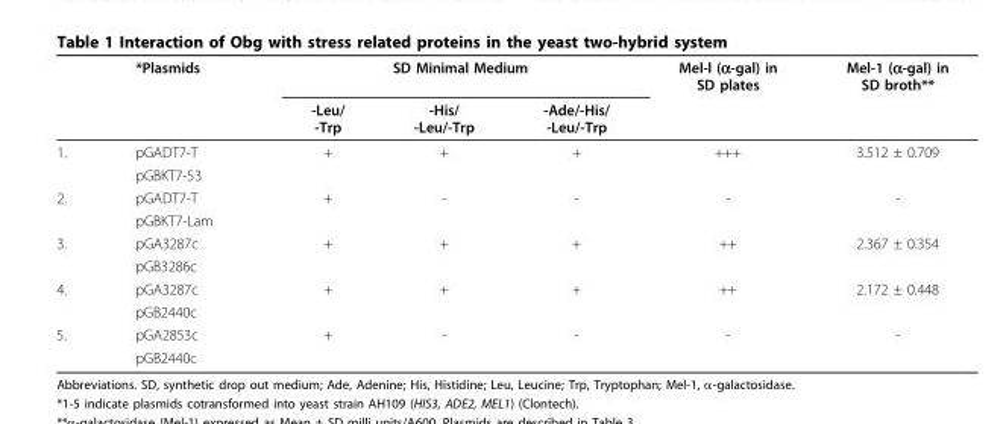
<table><thead><tr><td rowspan="2"></td><td rowspan="2">*Plasmids</td><td colspan="3">SD Minimal Medium</td><td rowspan="2">Mel-l (α-gal) in SD plates</td><td rowspan="2">Mel-1 (α-gal) in SD broth**</td></tr><tr><td>-Leu/ -Trp</td><td>-His/ -Leu/-Trp</td><td>-Ade/-His/ -Leu/-Trp</td></tr></thead><tbody><tr><td rowspan="2">1.</td><td>pGADT7-T</td><td>+</td><td>+</td><td>+</td><td>+++</td><td>3.512 ± 0.709</td></tr><tr><td>pGBKT7-53</td><td></td><td></td><td></td><td></td><td></td></tr><tr><td rowspan="2">2.</td><td>pGADT7-T</td><td>+</td><td>-</td><td>-</td><td>-</td><td>-</td></tr><tr><td>pGBKT7-Lam</td><td></td><td></td><td></td><td></td><td></td></tr><tr><td rowspan="2">3.</td><td>pGA3287c</td><td>+</td><td>+</td><td>+</td><td>++</td><td>2.367 ± 0.354</td></tr><tr><td>pGB3286c</td><td></td><td></td><td></td><td></td><td></td></tr><tr><td rowspan="2">4.</td><td>pGA3287c</td><td>+</td><td>+</td><td>+</td><td>++</td><td>2.172 ± 0.448</td></tr><tr><td>pGB2440c</td><td></td><td></td><td></td><td></td><td></td></tr><tr><td rowspan="2">5.</td><td>pGA2853c</td><td>+</td><td>-</td><td>-</td><td>-</td><td>-</td></tr><tr><td>pGB2440c</td><td></td><td></td><td></td><td></td><td></td></tr></tbody></table>